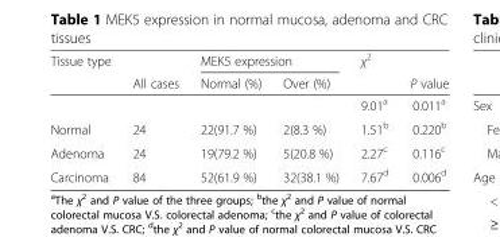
<table><thead><tr><td rowspan="2">Tissue type</td><td rowspan="2">All cases</td><td colspan="2">MEK5 expression</td><td rowspan="2">χ<sup>2</sup></td><td rowspan="2">P value</td></tr><tr><td>Normal (%)</td><td>Over (%)</td></tr></thead><tbody><tr><td></td><td></td><td></td><td></td><td>9.01<sup>a</sup></td><td>0.011<sup>a</sup></td></tr><tr><td>Normal</td><td>24</td><td>22(91.7 %)</td><td>2(8.3 %)</td><td>1.51<sup>b</sup></td><td>0.220<sup>b</sup></td></tr><tr><td>Adenoma</td><td>24</td><td>19(79.2 %)</td><td>5(20.8 %)</td><td>2.27<sup>c</sup></td><td>0.116<sup>c</sup></td></tr><tr><td>Carcinoma</td><td>84</td><td>52(61.9 %)</td><td>32(38.1 %)</td><td>7.67<sup>d</sup></td><td>0.006<sup>d</sup></td></tr></tbody></table>